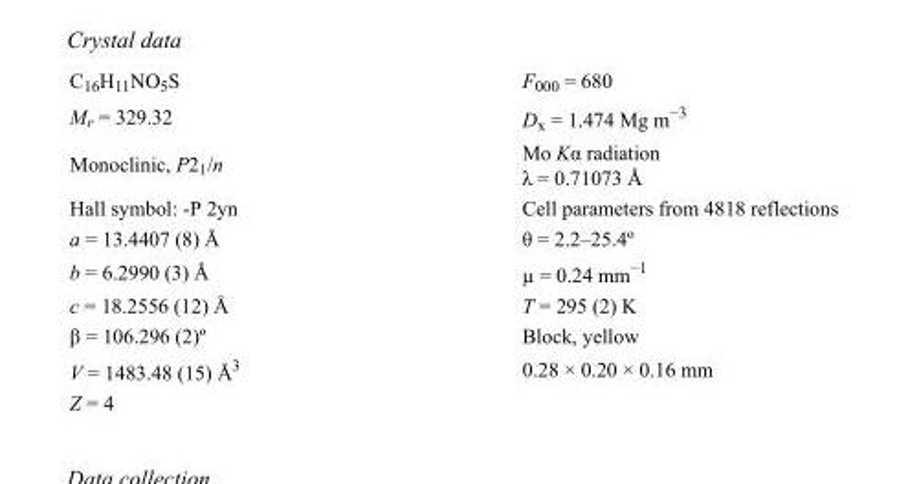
<table><tbody><tr><td>C<sub>16</sub>H<sub>11</sub>NO<sub>5</sub>S</td><td>F<sub>000</sub> = 680</td></tr><tr><td>M<sub>r</sub> = 329.32</td><td>D<sub>x</sub> = 1.474 Mg m<sup>−3</sup></td></tr><tr><td>Monoclinic, P2<sub>1</sub>/n</td><td>Mo Kα radiation λ = 0.71073 Å</td></tr><tr><td>Hall symbol: -P 2yn</td><td>Cell parameters from 4818 reflections</td></tr><tr><td>a = 13.4407 (8) Å</td><td>θ = 2.2–25.4º</td></tr><tr><td>b = 6.2990 (3) Å</td><td>µ = 0.24 mm<sup>−1</sup></td></tr><tr><td>c = 18.2556 (12) Å</td><td>T = 295 (2) K</td></tr><tr><td>β = 106.296 (2)º</td><td>Block, yellow</td></tr><tr><td>V = 1483.48 (15) Å<sup>3</sup></td><td>0.28 × 0.20 × 0.16 mm</td></tr><tr><td>Z = 4</td><td></td></tr></tbody></table>